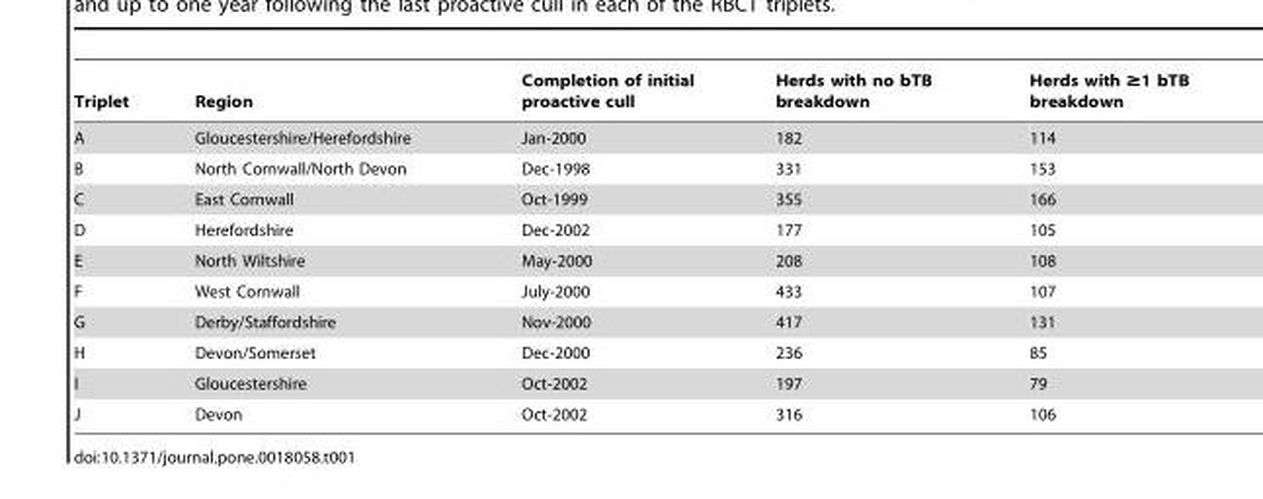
<table><thead><tr><td>Triplet</td><td>Region</td><td>Completion of initial proactive cull</td><td>Herds with no bTB breakdown</td><td>Herds with ≥1 bTB breakdown</td></tr></thead><tbody><tr><td>A</td><td>Gloucestershire/Herefordshire</td><td>Jan-2000</td><td>182</td><td>114</td></tr><tr><td>B</td><td>North Cornwall/North Devon</td><td>Dec-1998</td><td>331</td><td>153</td></tr><tr><td>C</td><td>East Cornwall</td><td>Oct-1999</td><td>355</td><td>166</td></tr><tr><td>D</td><td>Herefordshire</td><td>Dec-2002</td><td>177</td><td>105</td></tr><tr><td>E</td><td>North Wiltshire</td><td>May-2000</td><td>208</td><td>108</td></tr><tr><td>F</td><td>West Cornwall</td><td>July-2000</td><td>433</td><td>107</td></tr><tr><td>G</td><td>Derby/Staffordshire</td><td>Nov-2000</td><td>417</td><td>131</td></tr><tr><td>H</td><td>Devon/Somerset</td><td>Dec-2000</td><td>236</td><td>85</td></tr><tr><td>I</td><td>Gloucestershire</td><td>Oct-2002</td><td>197</td><td>79</td></tr><tr><td>J</td><td>Devon</td><td>Oct-2002</td><td>316</td><td>106</td></tr></tbody></table>